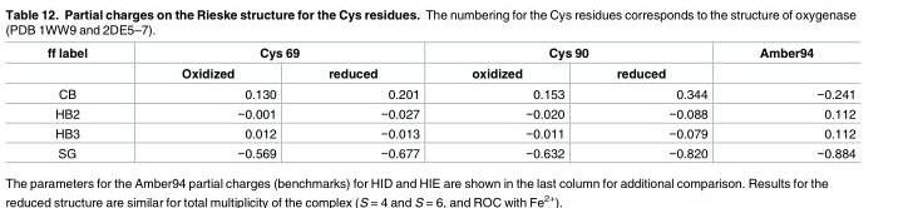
<table><thead><tr><td rowspan="2">ff label</td><td colspan="2">Cys 69</td><td colspan="2">Cys 90</td><td rowspan="2">Amber94</td></tr><tr><td>Oxidized</td><td>reduced</td><td>oxidized</td><td>reduced</td></tr></thead><tbody><tr><td>CB</td><td>0.130</td><td>0.201</td><td>0.153</td><td>0.344</td><td>−0.241</td></tr><tr><td>HB2</td><td>−0.001</td><td>−0.027</td><td>−0.020</td><td>−0.088</td><td>0.112</td></tr><tr><td>HB3</td><td>0.012</td><td>−0.013</td><td>−0.011</td><td>−0.079</td><td>0.112</td></tr><tr><td>SG</td><td>−0.569</td><td>−0.677</td><td>−0.632</td><td>−0.820</td><td>−0.884</td></tr></tbody></table>